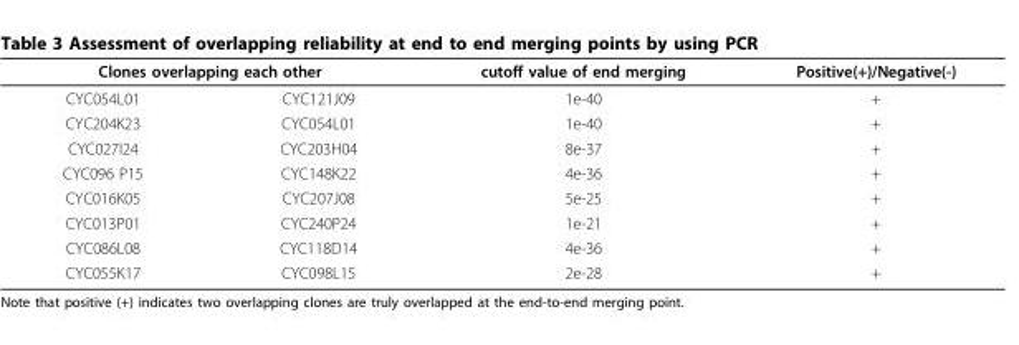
<table><thead><tr><td colspan="2">Clones overlapping each other</td><td rowspan="2">cutoff value of end merging 1e-40</td><td rowspan="2">Positive(+)/Negative(-) +</td></tr><tr><td>CYC054L01</td><td>CYC121J09</td></tr></thead><tbody><tr><td>CYC204K23</td><td>CYC054L01</td><td>1e-40</td><td>+</td></tr><tr><td>CYC027I24</td><td>CYC203H04</td><td>8e-37</td><td>+</td></tr><tr><td>CYC096 P15</td><td>CYC148K22</td><td>4e-36</td><td>+</td></tr><tr><td>CYC016K05</td><td>CYC207J08</td><td>5e-25</td><td>+</td></tr><tr><td>CYC013P01</td><td>CYC240P24</td><td>1e-21</td><td>+</td></tr><tr><td>CYC086L08</td><td>CYC118D14</td><td>4e-36</td><td>+</td></tr><tr><td>CYC055K17</td><td>CYC098L15</td><td>2e-28</td><td>+</td></tr></tbody></table>